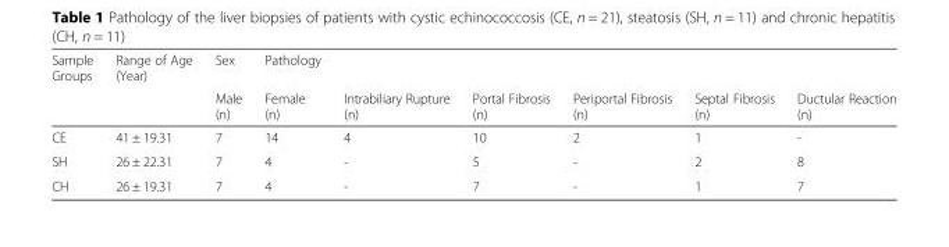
<table><thead><tr><td rowspan="2">Sample Groups</td><td rowspan="2">Range of Age (Year)</td><td rowspan="2">Sex Male (n)</td><td rowspan="2">Pathology Female (n)</td><td rowspan="2">Intrabiliary Rupture (n)</td><td rowspan="2">Portal Fibrosis (n)</td><td rowspan="2">Periportal Fibrosis (n)</td><td rowspan="2">Septal Fibrosis (n)</td><td rowspan="2">Ductular Reaction (n)</td></tr><tr></tr></thead><tbody><tr><td>CE</td><td>41 ± 19.31</td><td>7</td><td>14</td><td>4</td><td>10</td><td>2</td><td>1</td><td>-</td></tr><tr><td>SH</td><td>26 ± 22.31</td><td>7</td><td>4</td><td>-</td><td>5</td><td>-</td><td>2</td><td>8</td></tr><tr><td>CH</td><td>26 ± 19.31</td><td>7</td><td>4</td><td>-</td><td>7</td><td>-</td><td>1</td><td>7</td></tr></tbody></table>